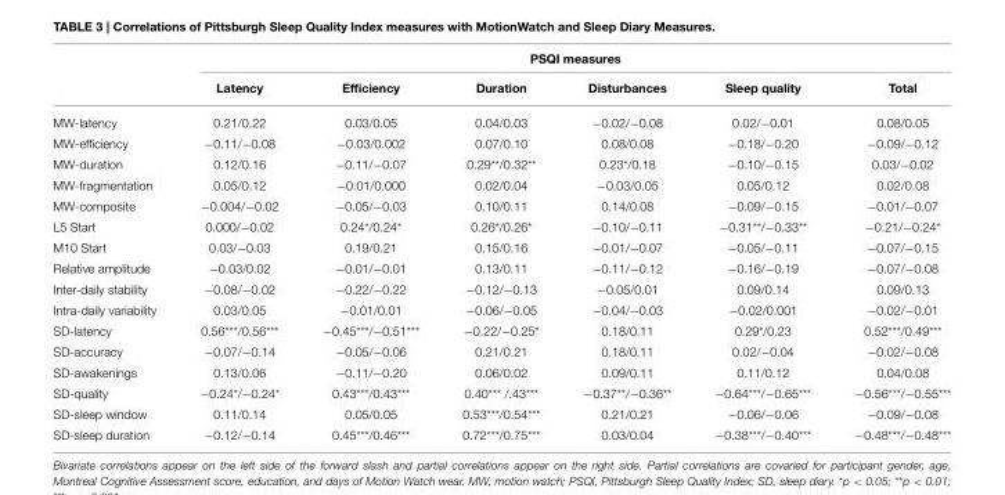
<table><thead><tr><td rowspan="2"></td><td colspan="6">PSQI measures</td></tr><tr><td>Latency</td><td>Efficiency</td><td>Duration</td><td>Disturbances</td><td>Sleep quality</td><td>Total</td></tr></thead><tbody><tr><td>MW-latency</td><td>0.21/0.22</td><td>0.03/0.05</td><td>0.04/0.03</td><td>−0.02/−0.08</td><td>0.02/−0.01</td><td>0.08/0.05</td></tr><tr><td>MW-efficiency</td><td>−0.11/−0.08</td><td>−0.03/0.002</td><td>0.07/0.10</td><td>0.08/0.08</td><td>−0.18/−0.20</td><td>−0.09/−0.12</td></tr><tr><td>MW-duration</td><td>0.12/0.16</td><td>−0.11/−0.07</td><td>0.29**/0.32**</td><td>0.23*/0.18</td><td>−0.10/−0.15</td><td>0.03/−0.02</td></tr><tr><td>MW-fragmentation</td><td>0.05/0.12</td><td>−0.01/0.000</td><td>0.02/0.04</td><td>−0.03/0.05</td><td>0.05/0.12</td><td>0.02/0.08</td></tr><tr><td>MW-composite</td><td>−0.004/−0.02</td><td>−0.05/−0.03</td><td>0.10/0.11</td><td>0.14/0.08</td><td>−0.09/−0.15</td><td>−0.01/−0.07</td></tr><tr><td>L5 Start</td><td>0.000/−0.02</td><td>0.24*/0.24*</td><td>0.26*/0.26*</td><td>−0.10/−0.11</td><td>−0.31**/−0.33**</td><td>−0.21/−0.24*</td></tr><tr><td>M10 Start</td><td>0.03/−0.03</td><td>0.19/0.21</td><td>0.15/0.16</td><td>−0.01/−0.07</td><td>−0.05/−0.11</td><td>−0.07/−0.15</td></tr><tr><td>Relative amplitude</td><td>−0.03/0.02</td><td>−0.01/−0.01</td><td>0.13/0.11</td><td>−0.11/−0.12</td><td>−0.16/−0.19</td><td>−0.07/−0.08</td></tr><tr><td>Inter-daily stability</td><td>−0.08/−0.02</td><td>−0.22/−0.22</td><td>−0.12/−0.13</td><td>−0.05/0.01</td><td>0.09/0.14</td><td>0.09/0.13</td></tr><tr><td>Intra-daily variability</td><td>0.03/0.05</td><td>−0.01/0.01</td><td>−0.06/−0.05</td><td>−0.04/−0.03</td><td>−0.02/0.001</td><td>−0.02/−0.01</td></tr><tr><td>SD-latency</td><td>0.56***/0.56***</td><td>−0.45***/−0.51***</td><td>−0.22/−0.25*</td><td>0.18/0.11</td><td>0.29*/0.23</td><td>0.52***/0.49***</td></tr><tr><td>SD-accuracy</td><td>−0.07/−0.14</td><td>−0.05/−0.06</td><td>0.21/0.21</td><td>0.18/0.11</td><td>0.02/−0.04</td><td>−0.02/−0.08</td></tr><tr><td>SD-awakenings</td><td>0.13/0.06</td><td>−0.11/−0.20</td><td>0.06/0.02</td><td>0.09/0.11</td><td>0.11/0.12</td><td>0.04/0.08</td></tr><tr><td>SD-quality</td><td>−0.24*/−0.24*</td><td>0.43***/0.43***</td><td>0.40*** /.43***</td><td>−0.37**/−0.36**</td><td>−0.64***/−0.65***</td><td>−0.56***/−0.55***</td></tr><tr><td>SD-sleep window</td><td>0.11/0.14</td><td>0.05/0.05</td><td>0.53***/0.54***</td><td>0.21/0.21</td><td>−0.06/−0.06</td><td>−0.09/−0.08</td></tr><tr><td>SD-sleep duration</td><td>−0.12/−0.14</td><td>0.45***/0.46***</td><td>0.72***/0.75***</td><td>0.03/0.04</td><td>−0.38***/−0.40***</td><td>−0.48***/−0.48***</td></tr></tbody></table>